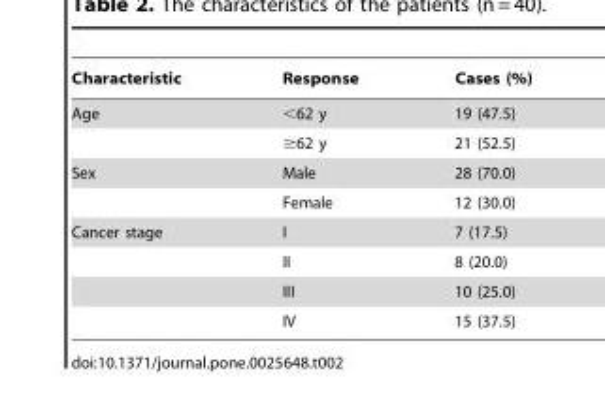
<table><thead><tr><td>Characteristic</td><td>Response</td><td>Cases (%)</td></tr></thead><tbody><tr><td rowspan="2">Age</td><td>&lt;62 y</td><td>19 (47.5)</td></tr><tr><td>≥62 y</td><td>21 (52.5)</td></tr><tr><td rowspan="2">Sex</td><td>Male</td><td>28 (70.0)</td></tr><tr><td>Female</td><td>12 (30.0)</td></tr><tr><td rowspan="4">Cancer stage</td><td>I</td><td>7 (17.5)</td></tr><tr><td>II</td><td>8 (20.0)</td></tr><tr><td>III</td><td>10 (25.0)</td></tr><tr><td>IV</td><td>15 (37.5)</td></tr></tbody></table>